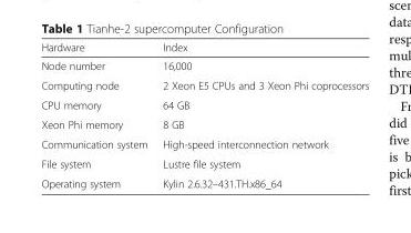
<table><thead><tr><td>Hardware</td><td>Index</td></tr></thead><tbody><tr><td>Node number</td><td>16,000</td></tr><tr><td>Computing node</td><td>2 Xeon E5 CPUs and 3 Xeon Phi coprocessors</td></tr><tr><td>CPU memory</td><td>64 GB</td></tr><tr><td>Xeon Phi memory</td><td>8 GB</td></tr><tr><td>Communication system</td><td>High-speed interconnection network</td></tr><tr><td>File system</td><td>Lustre file system</td></tr><tr><td>Operating system</td><td>Kylin 2.6.32–431.TH.x86_64</td></tr></tbody></table>